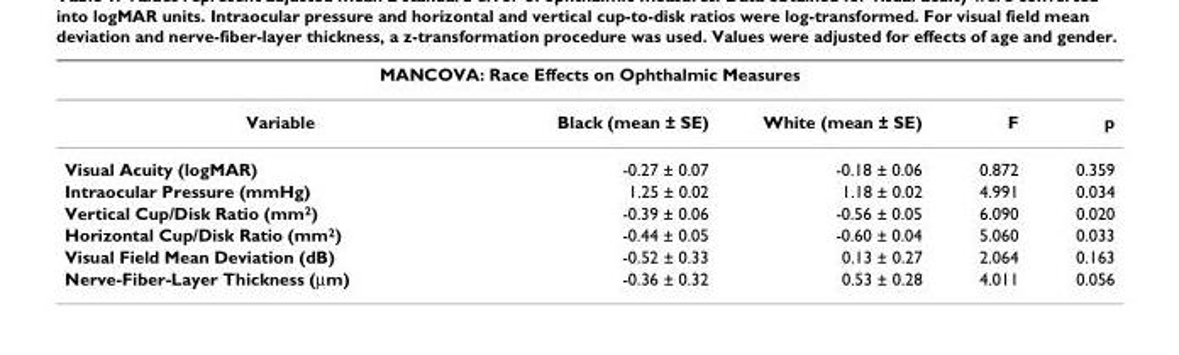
<table><thead><tr><td colspan="5">MANCOVA: Race Effects on Ophthalmic Measures</td></tr><tr><td>Variable</td><td>Black (mean ± SE)</td><td>White (mean ± SE)</td><td>F</td><td>p</td></tr></thead><tbody><tr><td>Visual Acuity (logMAR)</td><td>-0.27 ± 0.07</td><td>-0.18 ± 0.06</td><td>0.872</td><td>0.359</td></tr><tr><td>Intraocular Pressure (mmHg)</td><td>1.25 ± 0.02</td><td>1.18 ± 0.02</td><td>4.991</td><td>0.034</td></tr><tr><td>Vertical Cup/Disk Ratio (mm<sup>2</sup>)</td><td>-0.39 ± 0.06</td><td>-0.56 ± 0.05</td><td>6.090</td><td>0.020</td></tr><tr><td>Horizontal Cup/Disk Ratio (mm<sup>2</sup>)</td><td>-0.44 ± 0.05</td><td>-0.60 ± 0.04</td><td>5.060</td><td>0.033</td></tr><tr><td>Visual Field Mean Deviation (dB)</td><td>-0.52 ± 0.33</td><td>0.13 ± 0.27</td><td>2.064</td><td>0.163</td></tr><tr><td>Nerve-Fiber-Layer Thickness (µm)</td><td>-0.36 ± 0.32</td><td>0.53 ± 0.28</td><td>4.011</td><td>0.056</td></tr></tbody></table>